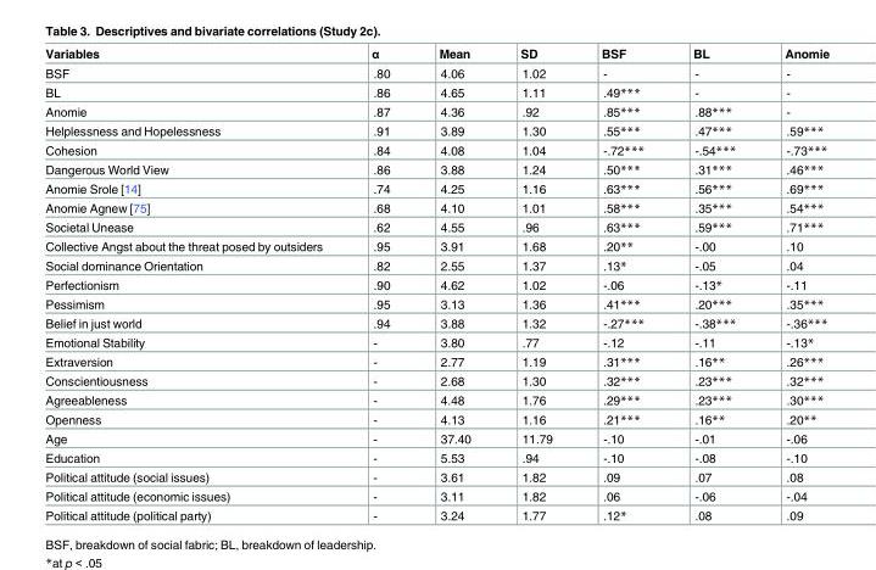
<table><thead><tr><td>Variables</td><td>α</td><td>Mean</td><td>SD</td><td>BSF</td><td>BL</td><td>Anomie</td></tr></thead><tbody><tr><td>BSF</td><td>.80</td><td>4.06</td><td>1.02</td><td>-</td><td>-</td><td>-</td></tr><tr><td>BL</td><td>.86</td><td>4.65</td><td>1.11</td><td>.49***</td><td>-</td><td>-</td></tr><tr><td>Anomie</td><td>.87</td><td>4.36</td><td>.92</td><td>.85***</td><td>.88***</td><td>-</td></tr><tr><td>Helplessness and Hopelessness</td><td>.91</td><td>3.89</td><td>1.30</td><td>.55***</td><td>.47***</td><td>.59***</td></tr><tr><td>Cohesion</td><td>.84</td><td>4.08</td><td>1.04</td><td>-.72***</td><td>-.54***</td><td>-.73***</td></tr><tr><td>Dangerous World View</td><td>.86</td><td>3.88</td><td>1.24</td><td>.50***</td><td>.31***</td><td>.46***</td></tr><tr><td>Anomie Srole [14]</td><td>.74</td><td>4.25</td><td>1.16</td><td>.63***</td><td>.56***</td><td>.69***</td></tr><tr><td>Anomie Agnew [75]</td><td>.68</td><td>4.10</td><td>1.01</td><td>.58***</td><td>.35***</td><td>.54***</td></tr><tr><td>Societal Unease</td><td>.62</td><td>4.55</td><td>.96</td><td>.63***</td><td>.59***</td><td>.71***</td></tr><tr><td>Collective Angst about the threat posed by outsiders</td><td>.95</td><td>3.91</td><td>1.68</td><td>.20**</td><td>-.00</td><td>.10</td></tr><tr><td>Social dominance Orientation</td><td>.82</td><td>2.55</td><td>1.37</td><td>.13*</td><td>-.05</td><td>.04</td></tr><tr><td>Perfectionism</td><td>.90</td><td>4.62</td><td>1.02</td><td>-.06</td><td>-.13*</td><td>-.11</td></tr><tr><td>Pessimism</td><td>.95</td><td>3.13</td><td>1.36</td><td>.41***</td><td>.20***</td><td>.35***</td></tr><tr><td>Belief in just world</td><td>.94</td><td>3.88</td><td>1.32</td><td>-.27***</td><td>-.38***</td><td>-.36***</td></tr><tr><td>Emotional Stability</td><td>-</td><td>3.80</td><td>.77</td><td>-.12</td><td>-.11</td><td>-.13*</td></tr><tr><td>Extraversion</td><td>-</td><td>2.77</td><td>1.19</td><td>.31***</td><td>.16**</td><td>.26***</td></tr><tr><td>Conscientiousness</td><td>-</td><td>2.68</td><td>1.30</td><td>.32***</td><td>.23***</td><td>.32***</td></tr><tr><td>Agreeableness</td><td>-</td><td>4.48</td><td>1.76</td><td>.29***</td><td>.23***</td><td>.30***</td></tr><tr><td>Openness</td><td>-</td><td>4.13</td><td>1.16</td><td>.21***</td><td>.16**</td><td>.20**</td></tr><tr><td>Age</td><td>-</td><td>37.40</td><td>11.79</td><td>-.10</td><td>-.01</td><td>-.06</td></tr><tr><td>Education</td><td>-</td><td>5.53</td><td>.94</td><td>-.10</td><td>-.08</td><td>-.10</td></tr><tr><td>Political attitude (social issues)</td><td>-</td><td>3.61</td><td>1.82</td><td>.09</td><td>.07</td><td>.08</td></tr><tr><td>Political attitude (economic issues)</td><td>-</td><td>3.11</td><td>1.82</td><td>.06</td><td>-.06</td><td>-.04</td></tr><tr><td>Political attitude (political party)</td><td>-</td><td>3.24</td><td>1.77</td><td>.12*</td><td>.08</td><td>.09</td></tr></tbody></table>